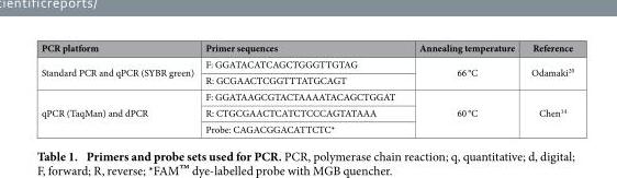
<table><thead><tr><td>PCR platform</td><td>Primer sequences</td><td>Annealing temperature</td><td>Reference</td></tr></thead><tbody><tr><td rowspan="2">Standard PCR and qPCR (SYBR green)</td><td>F: GGATACATCAGCTGGGTTGTAG</td><td rowspan="2">66 °C</td><td rowspan="2">Odamaki<sup>20</sup></td></tr><tr><td>R: GCGAACTCGGTTTATGCAGT</td></tr><tr><td rowspan="3">qPCR (TaqMan) and dPCR</td><td>F: GGATAAGCGTACTAAAATACAGCTGGAT</td><td rowspan="3">60 °C</td><td rowspan="3">Chen<sup>14</sup></td></tr><tr><td>R: CTGCGAACTCATCTCCCAGTATAAA</td></tr><tr><td>Probe: CAGACGGACATTCTC*</td></tr></tbody></table>